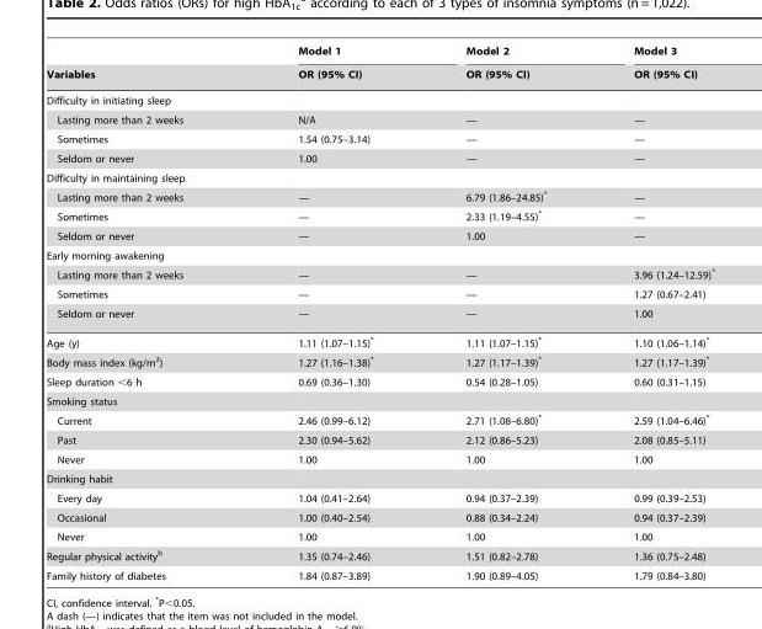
<table><thead><tr><td rowspan="2">Variables</td><td rowspan="2">Model 1 OR (95% CI)</td><td rowspan="2">Model 2 OR (95% CI)</td><td rowspan="2">Model 3 OR (95% CI)</td></tr><tr></tr></thead><tbody><tr><td colspan="4">Difficulty in initiating sleep</td></tr><tr><td>Lasting more than 2 weeks</td><td>N/A</td><td>—</td><td>—</td></tr><tr><td>Sometimes</td><td>1.54 (0.75–3.14)</td><td>—</td><td>—</td></tr><tr><td>Seldom or never</td><td>1.00</td><td>—</td><td>—</td></tr><tr><td colspan="4">Difficulty in maintaining sleep</td></tr><tr><td>Lasting more than 2 weeks</td><td>—</td><td>6.79 (1.86–24.85)*</td><td>—</td></tr><tr><td>Sometimes</td><td>—</td><td>2.33 (1.19–4.55)*</td><td>—</td></tr><tr><td>Seldom or never</td><td>—</td><td>1.00</td><td>—</td></tr><tr><td colspan="4">Early morning awakening</td></tr><tr><td>Lasting more than 2 weeks</td><td>—</td><td>—</td><td>3.96 (1.24–12.59)*</td></tr><tr><td>Sometimes</td><td>—</td><td>—</td><td>1.27 (0.67–2.41)</td></tr><tr><td>Seldom or never</td><td>—</td><td>—</td><td>1.00</td></tr><tr><td>Age (y)</td><td>1.11 (1.07–1.15)*</td><td>1.11 (1.07–1.15)*</td><td>1.10 (1.06–1.14)*</td></tr><tr><td>Body mass index (kg/m<sup>2</sup>)</td><td>1.27 (1.16–1.38)*</td><td>1.27 (1.17–1.39)*</td><td>1.27 (1.17–1.39)*</td></tr><tr><td>Sleep duration &lt;6 h</td><td>0.69 (0.36–1.30)</td><td>0.54 (0.28–1.05)</td><td>0.60 (0.31–1.15)</td></tr><tr><td colspan="4">Smoking status</td></tr><tr><td>Current</td><td>2.46 (0.99–6.12)</td><td>2.71 (1.08–6.80)*</td><td>2.59 (1.04–6.46)*</td></tr><tr><td>Past</td><td>2.30 (0.94–5.62)</td><td>2.12 (0.86–5.23)</td><td>2.08 (0.85–5.11)</td></tr><tr><td>Never</td><td>1.00</td><td>1.00</td><td>1.00</td></tr><tr><td colspan="4">Drinking habit</td></tr><tr><td>Every day</td><td>1.04 (0.41–2.64)</td><td>0.94 (0.37–2.39)</td><td>0.99 (0.39–2.53)</td></tr><tr><td>Occasional</td><td>1.00 (0.40–2.54)</td><td>0.88 (0.34–2.24)</td><td>0.94 (0.37–2.39)</td></tr><tr><td>Never</td><td>1.00</td><td>1.00</td><td>1.00</td></tr><tr><td>Regular physical activity<sup>b</sup></td><td>1.35 (0.74–2.46)</td><td>1.51 (0.82–2.78)</td><td>1.36 (0.75–2.48)</td></tr><tr><td>Family history of diabetes</td><td>1.84 (0.87–3.89)</td><td>1.90 (0.89–4.05)</td><td>1.79 (0.84–3.80)</td></tr></tbody></table>